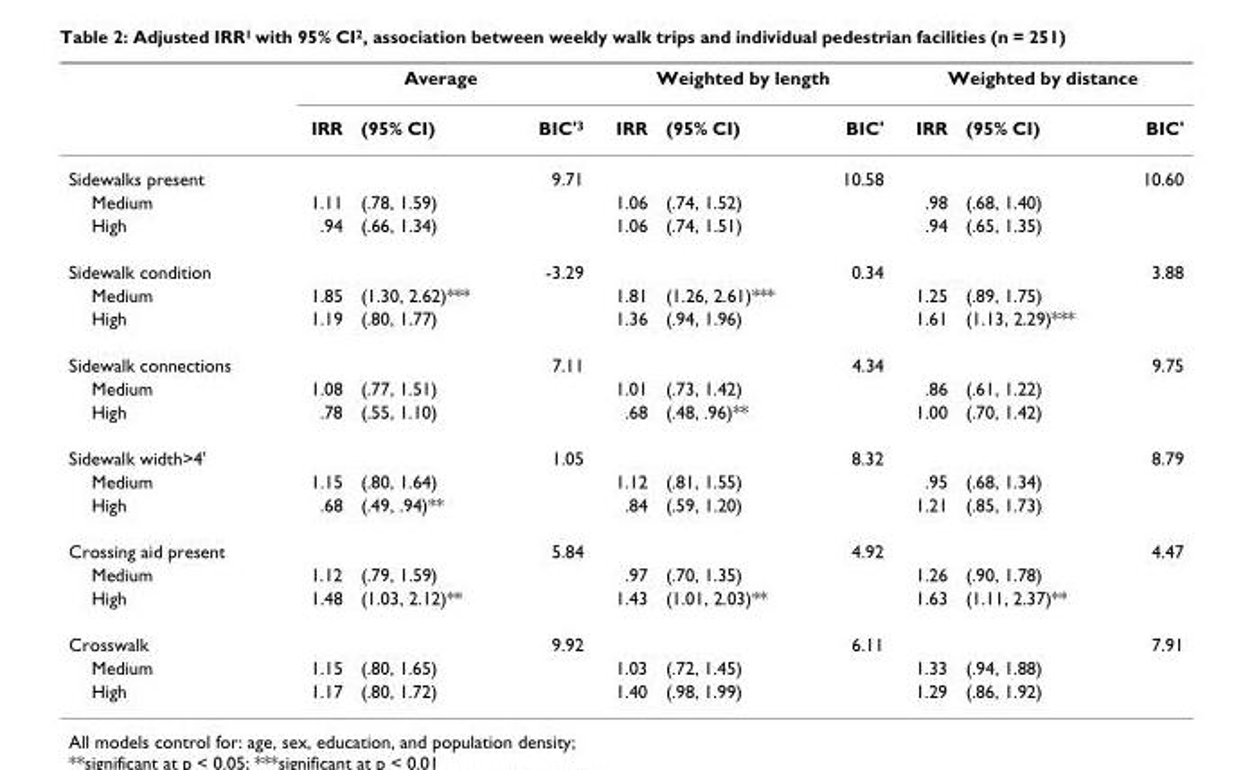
<table><thead><tr><td rowspan="2"></td><td colspan="3">Average</td><td colspan="3">Weighted by length</td><td colspan="3">Weighted by distance</td></tr><tr><td>IRR</td><td>(95% CI)</td><td>BIC&#x27;<sup>3</sup></td><td>IRR</td><td>(95% CI)</td><td>BIC&#x27;</td><td>IRR</td><td>(95% CI)</td><td>BIC&#x27;</td></tr></thead><tbody><tr><td>Sidewalks present</td><td></td><td></td><td>9.71</td><td></td><td></td><td>10.58</td><td></td><td></td><td>10.60</td></tr><tr><td>Medium</td><td>1.11</td><td>(.78, 1.59)</td><td></td><td>1.06</td><td>(.74, 1.52)</td><td></td><td>.98</td><td>(.68, 1.40)</td><td></td></tr><tr><td>High</td><td>.94</td><td>(.66, 1.34)</td><td></td><td>1.06</td><td>(.74, 1.51)</td><td></td><td>.94</td><td>(.65, 1.35)</td><td></td></tr><tr><td>Sidewalk condition</td><td></td><td></td><td>-3.29</td><td></td><td></td><td>0.34</td><td></td><td></td><td>3.88</td></tr><tr><td>Medium</td><td>1.85</td><td>(1.30, 2.62)***</td><td></td><td>1.81</td><td>(1.26, 2.61)***</td><td></td><td>1.25</td><td>(.89, 1.75)</td><td></td></tr><tr><td>High</td><td>1.19</td><td>(.80, 1.77)</td><td></td><td>1.36</td><td>(.94, 1.96)</td><td></td><td>1.61</td><td>(1.13, 2.29)***</td><td></td></tr><tr><td>Sidewalk connections</td><td></td><td></td><td>7.11</td><td></td><td></td><td>4.34</td><td></td><td></td><td>9.75</td></tr><tr><td>Medium</td><td>1.08</td><td>(.77, 1.51)</td><td></td><td>1.01</td><td>(.73, 1.42)</td><td></td><td>.86</td><td>(.61, 1.22)</td><td></td></tr><tr><td>High</td><td>.78</td><td>(.55, 1.10)</td><td></td><td>.68</td><td>(.48, .96)**</td><td></td><td>1.00</td><td>(.70, 1.42)</td><td></td></tr><tr><td>Sidewalk width&gt;4&#x27;</td><td></td><td></td><td>1.05</td><td></td><td></td><td>8.32</td><td></td><td></td><td>8.79</td></tr><tr><td>Medium</td><td>1.15</td><td>(.80, 1.64)</td><td></td><td>1.12</td><td>(.81, 1.55)</td><td></td><td>.95</td><td>(.68, 1.34)</td><td></td></tr><tr><td>High</td><td>.68</td><td>(.49, .94)**</td><td></td><td>.84</td><td>(.59, 1.20)</td><td></td><td>1.21</td><td>(.85, 1.73)</td><td></td></tr><tr><td>Crossing aid present</td><td></td><td></td><td>5.84</td><td></td><td></td><td>4.92</td><td></td><td></td><td>4.47</td></tr><tr><td>Medium</td><td>1.12</td><td>(.79, 1.59)</td><td></td><td>.97</td><td>(.70, 1.35)</td><td></td><td>1.26</td><td>(.90, 1.78)</td><td></td></tr><tr><td>High</td><td>1.48</td><td>(1.03, 2.12)**</td><td></td><td>1.43</td><td>(1.01, 2.03)**</td><td></td><td>1.63</td><td>(1.11, 2.37)**</td><td></td></tr><tr><td>Crosswalk</td><td></td><td></td><td>9.92</td><td></td><td></td><td>6.11</td><td></td><td></td><td>7.91</td></tr><tr><td>Medium</td><td>1.15</td><td>(.80, 1.65)</td><td></td><td>1.03</td><td>(.72, 1.45)</td><td></td><td>1.33</td><td>(.94, 1.88)</td><td></td></tr><tr><td>High</td><td>1.17</td><td>(.80, 1.72)</td><td></td><td>1.40</td><td>(.98, 1.99)</td><td></td><td>1.29</td><td>(.86, 1.92)</td><td></td></tr></tbody></table>